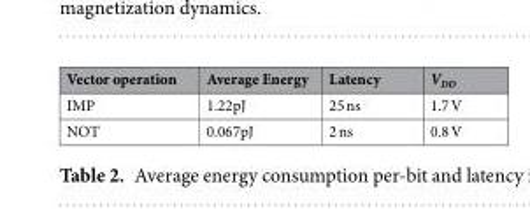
<table><thead><tr><td>Vector operation</td><td>Average Energy</td><td>Latency</td><td>V<sub>DD</sub></td></tr></thead><tbody><tr><td>IMP</td><td>1.22pJ</td><td>25 ns</td><td>1.7 V</td></tr><tr><td>NOT</td><td>0.067pJ</td><td>2 ns</td><td>0.8 V</td></tr></tbody></table>